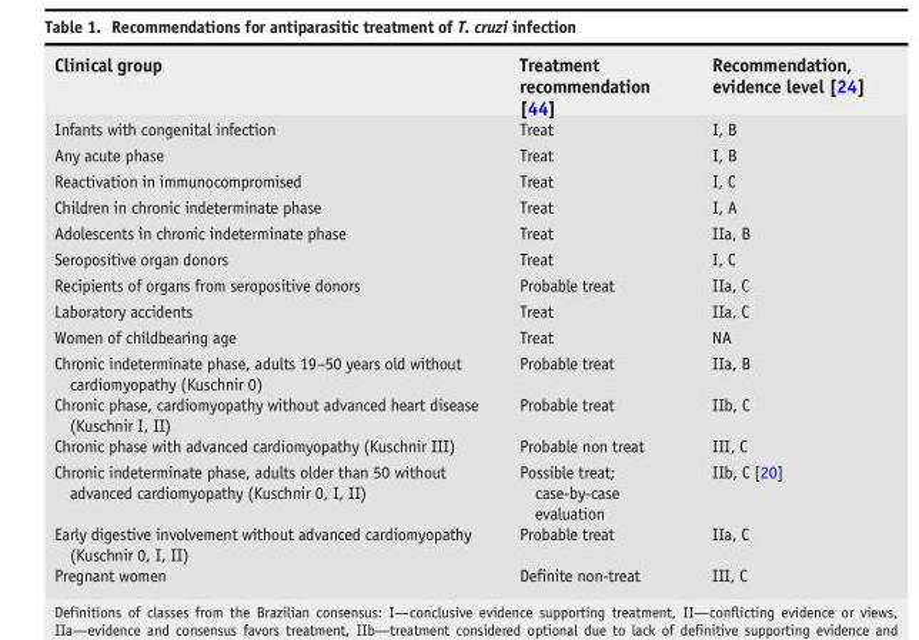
<table><thead><tr><td>Clinical group</td><td>Treatment recommendation [44]</td><td>Recommendation, evidence level [24]</td></tr></thead><tbody><tr><td>Infants with congenital infection</td><td>Treat</td><td>I, B</td></tr><tr><td>Any acute phase</td><td>Treat</td><td>I, B</td></tr><tr><td>Reactivation in immunocompromised</td><td>Treat</td><td>I, C</td></tr><tr><td>Children in chronic indeterminate phase</td><td>Treat</td><td>I, A</td></tr><tr><td>Adolescents in chronic indeterminate phase</td><td>Treat</td><td>IIa, B</td></tr><tr><td>Seropositive organ donors</td><td>Treat</td><td>I, C</td></tr><tr><td>Recipients of organs from seropositive donors</td><td>Probable treat</td><td>IIa, C</td></tr><tr><td>Laboratory accidents</td><td>Treat</td><td>IIa, C</td></tr><tr><td>Women of childbearing age</td><td>Treat</td><td>NA</td></tr><tr><td>Chronic indeterminate phase, adults 19–50 years old without cardiomyopathy (Kuschnir 0)</td><td>Probable treat</td><td>IIa, B</td></tr><tr><td>Chronic phase, cardiomyopathy without advanced heart disease (Kuschnir I, II)</td><td>Probable treat</td><td>IIb, C</td></tr><tr><td>Chronic phase with advanced cardiomyopathy (Kuschnir III)</td><td>Probable non treat</td><td>III, C</td></tr><tr><td>Chronic indeterminate phase, adults older than 50 without advanced cardiomyopathy (Kuschnir 0, I, II)</td><td>Possible treat; case-by-case evaluation</td><td>IIb, C [20]</td></tr><tr><td>Early digestive involvement without advanced cardiomyopathy (Kuschnir 0, I, II)</td><td>Probable treat</td><td>IIa, C</td></tr><tr><td>Pregnant women</td><td>Definite non-treat</td><td>III, C</td></tr></tbody></table>